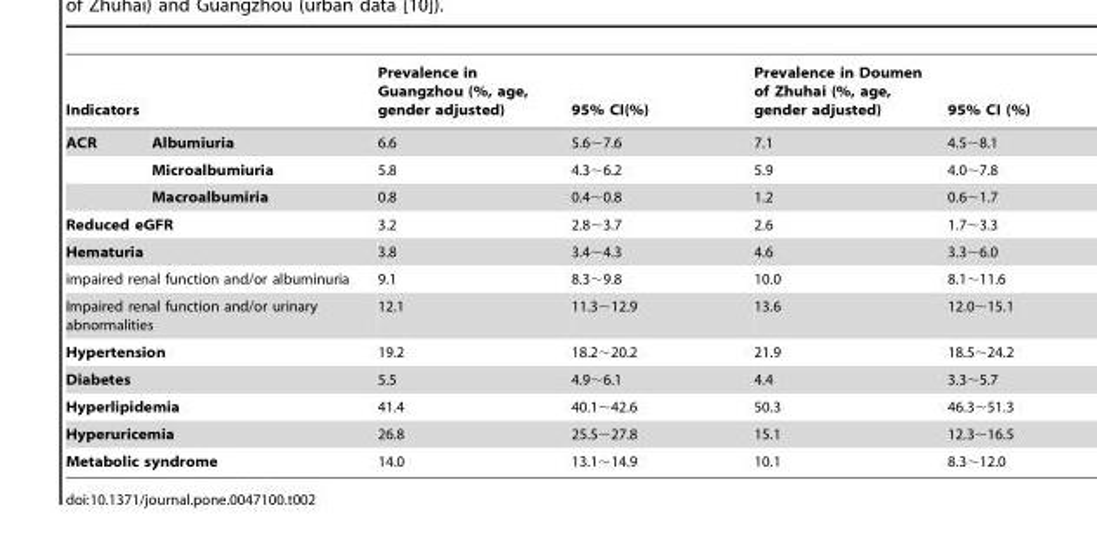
<table><thead><tr><td colspan="2">Indicators</td><td rowspan="2">Prevalence in Guangzhou (%, age, gender adjusted) 6.6</td><td rowspan="2">95% CI(%) 5.6∼7.6</td><td rowspan="2">Prevalence in Doumen of Zhuhai (%, age, gender adjusted) 7.1</td><td rowspan="2">95% CI (%) 4.5∼8.1</td></tr><tr><td>ACR</td><td>Albumiuria</td></tr></thead><tbody><tr><td></td><td>Microalbumiuria</td><td>5.8</td><td>4.3∼6.2</td><td>5.9</td><td>4.0∼7.8</td></tr><tr><td></td><td>Macroalbumiria</td><td>0.8</td><td>0.4∼0.8</td><td>1.2</td><td>0.6∼1.7</td></tr><tr><td colspan="2">Reduced eGFR</td><td>3.2</td><td>2.8∼3.7</td><td>2.6</td><td>1.7∼3.3</td></tr><tr><td colspan="2">Hematuria</td><td>3.8</td><td>3.4∼4.3</td><td>4.6</td><td>3.3∼6.0</td></tr><tr><td colspan="2">impaired renal function and/or albuminuria</td><td>9.1</td><td>8.3∼9.8</td><td>10.0</td><td>8.1∼11.6</td></tr><tr><td colspan="2">Impaired renal function and/or urinary abnormalities</td><td>12.1</td><td>11.3∼12.9</td><td>13.6</td><td>12.0∼15.1</td></tr><tr><td colspan="2">Hypertension</td><td>19.2</td><td>18.2∼20.2</td><td>21.9</td><td>18.5∼24.2</td></tr><tr><td colspan="2">Diabetes</td><td>5.5</td><td>4.9∼6.1</td><td>4.4</td><td>3.3∼5.7</td></tr><tr><td colspan="2">Hyperlipidemia</td><td>41.4</td><td>40.1∼42.6</td><td>50.3</td><td>46.3∼51.3</td></tr><tr><td colspan="2">Hyperuricemia</td><td>26.8</td><td>25.5∼27.8</td><td>15.1</td><td>12.3∼16.5</td></tr><tr><td colspan="2">Metabolic syndrome</td><td>14.0</td><td>13.1∼14.9</td><td>10.1</td><td>8.3∼12.0</td></tr></tbody></table>